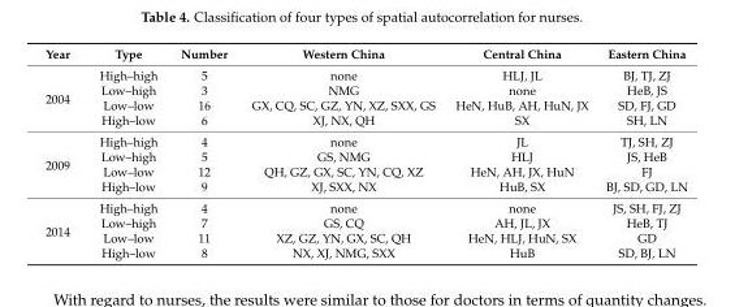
<table><thead><tr><td>Year</td><td>Type</td><td>Number</td><td>Western China</td><td>Central China</td><td>Eastern China</td></tr></thead><tbody><tr><td rowspan="4">2004</td><td>High–high</td><td>5</td><td>none</td><td>HLJ, JL</td><td>BJ, TJ, ZJ</td></tr><tr><td>Low–high</td><td>3</td><td>NMG</td><td>none</td><td>HeB, JS</td></tr><tr><td>Low–low</td><td>16</td><td>GX, CQ, SC, GZ, YN, XZ, SXX, GS</td><td>HeN, HuB, AH, HuN, JX</td><td>SD, FJ, GD</td></tr><tr><td>High–low</td><td>6</td><td>XJ, NX, QH</td><td>SX</td><td>SH, LN</td></tr><tr><td rowspan="4">2009</td><td>High–high</td><td>4</td><td>none</td><td>JL</td><td>TJ, SH, ZJ</td></tr><tr><td>Low–high</td><td>5</td><td>GS, NMG</td><td>HLJ</td><td>JS, HeB</td></tr><tr><td>Low–low</td><td>12</td><td>QH, GZ, GX, SC, YN, CQ, XZ</td><td>HeN, AH, JX, HuN</td><td>FJ</td></tr><tr><td>High–low</td><td>9</td><td>XJ, SXX, NX</td><td>HuB, SX</td><td>BJ, SD, GD, LN</td></tr><tr><td rowspan="4">2014</td><td>High–high</td><td>4</td><td>none</td><td>none</td><td>JS, SH, FJ, ZJ</td></tr><tr><td>Low–high</td><td>7</td><td>GS, CQ</td><td>AH, JL, JX</td><td>HeB, TJ</td></tr><tr><td>Low–low</td><td>11</td><td>XZ, GZ, YN, GX, SC, QH</td><td>HeN, HLJ, HuN, SX</td><td>GD</td></tr><tr><td>High–low</td><td>8</td><td>NX, XJ, NMG, SXX</td><td>HuB</td><td>SD, BJ, LN</td></tr></tbody></table>